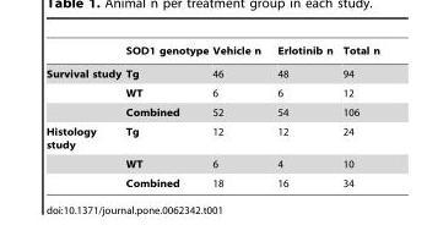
<table><thead><tr><td></td><td>SOD1 genotype</td><td>Vehicle n</td><td>Erlotinib n</td><td>Total n</td></tr></thead><tbody><tr><td rowspan="3">Survival study</td><td>Tg</td><td>46</td><td>48</td><td>94</td></tr><tr><td>WT</td><td>6</td><td>6</td><td>12</td></tr><tr><td>Combined</td><td>52</td><td>54</td><td>106</td></tr><tr><td rowspan="3">Histology study</td><td>Tg</td><td>12</td><td>12</td><td>24</td></tr><tr><td>WT</td><td>6</td><td>4</td><td>10</td></tr><tr><td>Combined</td><td>18</td><td>16</td><td>34</td></tr></tbody></table>